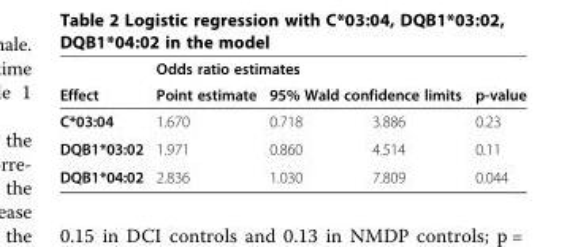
<table><thead><tr><td rowspan="3">Effect C*03:04</td><td colspan="3">Odds ratio estimates</td><td rowspan="3">p-value 0.23</td></tr><tr><td rowspan="2">Point estimate 1.670</td><td colspan="2">95% Wald confidence limits</td></tr><tr><td>0.718</td><td>3.886</td></tr></thead><tbody><tr><td>DQB1*03:02</td><td>1.971</td><td>0.860</td><td>4.514</td><td>0.11</td></tr><tr><td>DQB1*04:02</td><td>2.836</td><td>1.030</td><td>7.809</td><td>0.044</td></tr></tbody></table>